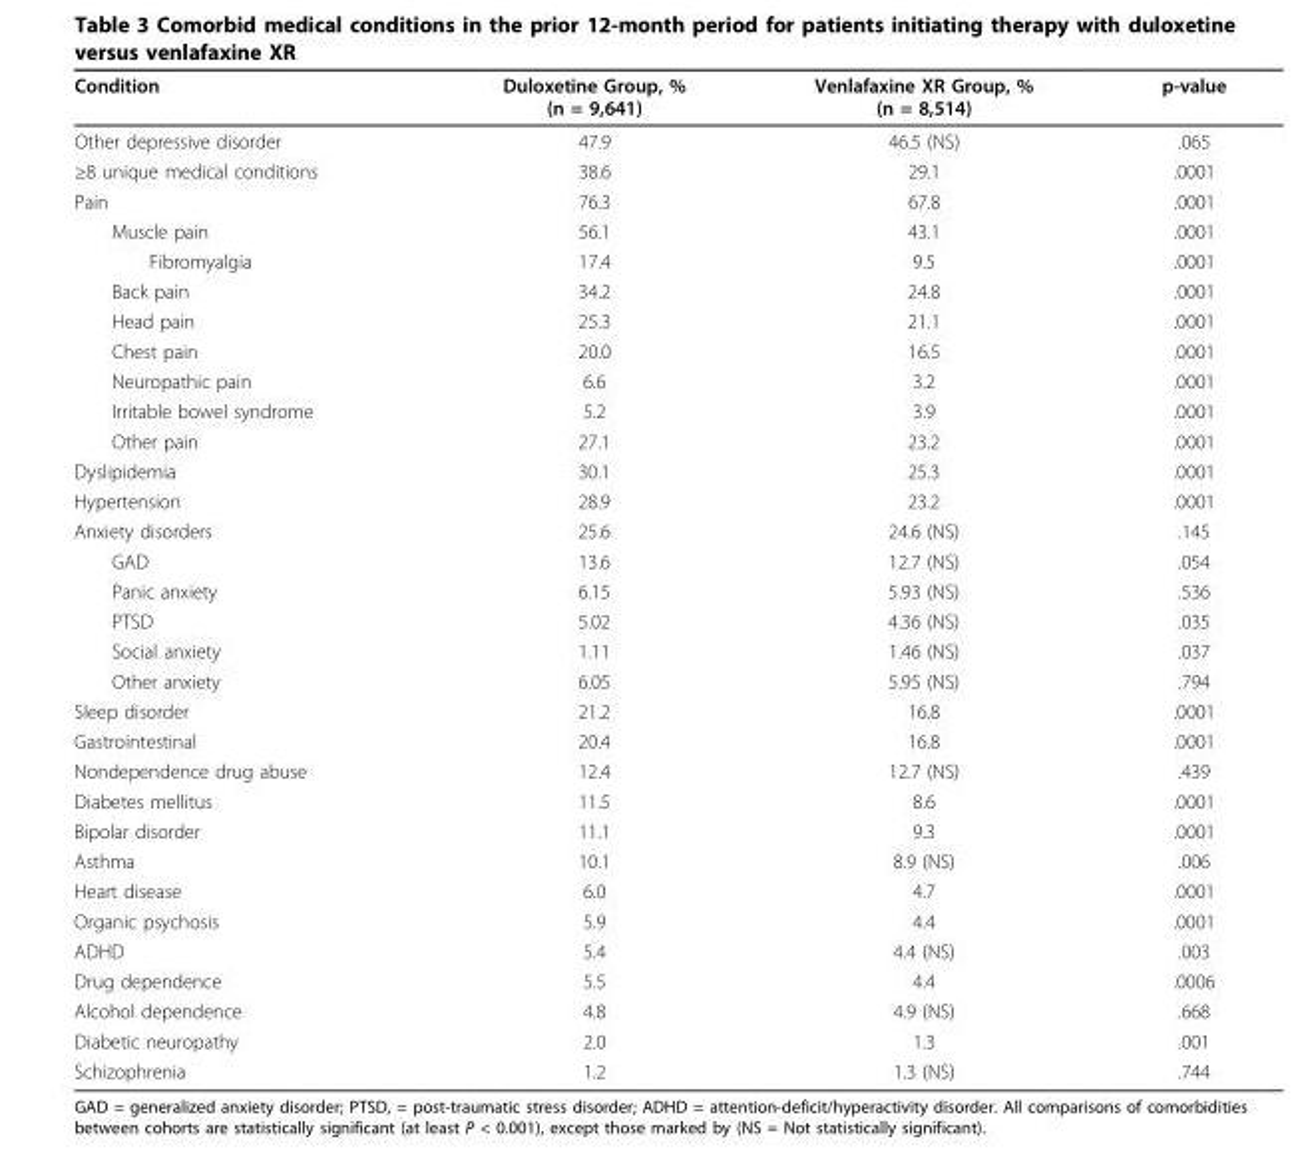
<table><thead><tr><td>Condition</td><td>Duloxetine Group, % (n = 9,641)</td><td>Venlafaxine XR Group, % (n = 8,514)</td><td>p-value</td></tr></thead><tbody><tr><td>Other depressive disorder</td><td>47.9</td><td>46.5 (NS)</td><td>.065</td></tr><tr><td>≥8 unique medical conditions</td><td>38.6</td><td>29.1</td><td>.0001</td></tr><tr><td>Pain</td><td>76.3</td><td>67.8</td><td>.0001</td></tr><tr><td>Muscle pain</td><td>56.1</td><td>43.1</td><td>.0001</td></tr><tr><td>Fibromyalgia</td><td>17.4</td><td>9.5</td><td>.0001</td></tr><tr><td>Back pain</td><td>34.2</td><td>24.8</td><td>.0001</td></tr><tr><td>Head pain</td><td>25.3</td><td>21.1</td><td>.0001</td></tr><tr><td>Chest pain</td><td>20.0</td><td>16.5</td><td>.0001</td></tr><tr><td>Neuropathic pain</td><td>6.6</td><td>3.2</td><td>.0001</td></tr><tr><td>Irritable bowel syndrome</td><td>5.2</td><td>3.9</td><td>.0001</td></tr><tr><td>Other pain</td><td>27.1</td><td>23.2</td><td>.0001</td></tr><tr><td>Dyslipidemia</td><td>30.1</td><td>25.3</td><td>.0001</td></tr><tr><td>Hypertension</td><td>28.9</td><td>23.2</td><td>.0001</td></tr><tr><td>Anxiety disorders</td><td>25.6</td><td>24.6 (NS)</td><td>.145</td></tr><tr><td>GAD</td><td>13.6</td><td>12.7 (NS)</td><td>.054</td></tr><tr><td>Panic anxiety</td><td>6.15</td><td>5.93 (NS)</td><td>.536</td></tr><tr><td>PTSD</td><td>5.02</td><td>4.36 (NS)</td><td>.035</td></tr><tr><td>Social anxiety</td><td>1.11</td><td>1.46 (NS)</td><td>.037</td></tr><tr><td>Other anxiety</td><td>6.05</td><td>5.95 (NS)</td><td>.794</td></tr><tr><td>Sleep disorder</td><td>21.2</td><td>16.8</td><td>.0001</td></tr><tr><td>Gastrointestinal</td><td>20.4</td><td>16.8</td><td>.0001</td></tr><tr><td>Nondependence drug abuse</td><td>12.4</td><td>12.7 (NS)</td><td>.439</td></tr><tr><td>Diabetes mellitus</td><td>11.5</td><td>8.6</td><td>.0001</td></tr><tr><td>Bipolar disorder</td><td>11.1</td><td>9.3</td><td>.0001</td></tr><tr><td>Asthma</td><td>10.1</td><td>8.9 (NS)</td><td>.006</td></tr><tr><td>Heart disease</td><td>6.0</td><td>4.7</td><td>.0001</td></tr><tr><td>Organic psychosis</td><td>5.9</td><td>4.4</td><td>.0001</td></tr><tr><td>ADHD</td><td>5.4</td><td>4.4 (NS)</td><td>.003</td></tr><tr><td>Drug dependence</td><td>5.5</td><td>4.4</td><td>.0006</td></tr><tr><td>Alcohol dependence</td><td>4.8</td><td>4.9 (NS)</td><td>.668</td></tr><tr><td>Diabetic neuropathy</td><td>2.0</td><td>1.3</td><td>.001</td></tr><tr><td>Schizophrenia</td><td>1.2</td><td>1.3 (NS)</td><td>.744</td></tr></tbody></table>